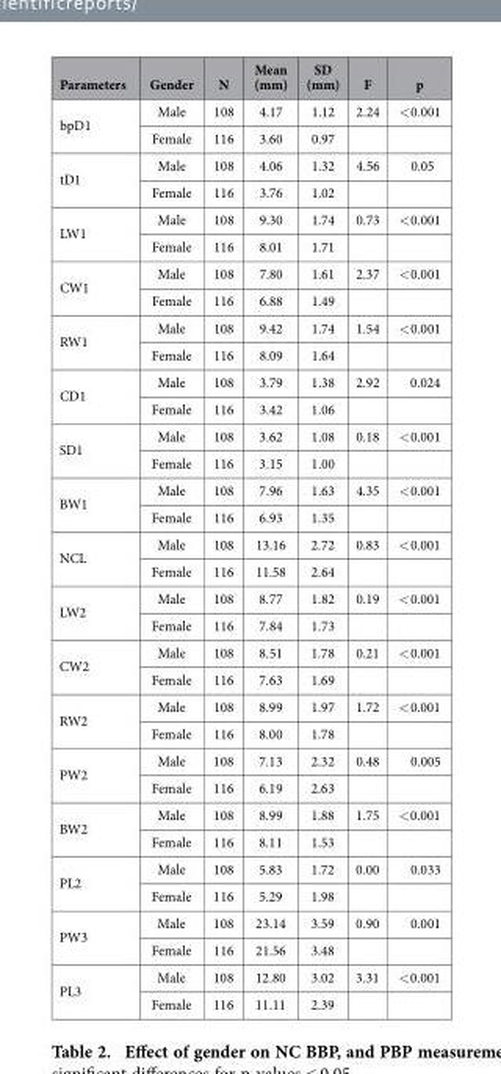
<table><thead><tr><td>Parameters</td><td>Gender</td><td>N</td><td>Mean (mm)</td><td>SD (mm)</td><td>F</td><td>p</td></tr></thead><tbody><tr><td rowspan="2">bpD1</td><td>Male</td><td>108</td><td>4.17</td><td>1.12</td><td>2.24</td><td>&lt; 0.001</td></tr><tr><td>Female</td><td>116</td><td>3.60</td><td>0.97</td><td></td><td></td></tr><tr><td rowspan="2">tD1</td><td>Male</td><td>108</td><td>4.06</td><td>1.32</td><td>4.56</td><td>0.05</td></tr><tr><td>Female</td><td>116</td><td>3.76</td><td>1.02</td><td></td><td></td></tr><tr><td rowspan="2">LW1</td><td>Male</td><td>108</td><td>9.30</td><td>1.74</td><td>0.73</td><td>&lt; 0.001</td></tr><tr><td>Female</td><td>116</td><td>8.01</td><td>1.71</td><td></td><td></td></tr><tr><td rowspan="2">CW1</td><td>Male</td><td>108</td><td>7.80</td><td>1.61</td><td>2.37</td><td>&lt; 0.001</td></tr><tr><td>Female</td><td>116</td><td>6.88</td><td>1.49</td><td></td><td></td></tr><tr><td rowspan="2">RW1</td><td>Male</td><td>108</td><td>9.42</td><td>1.74</td><td>1.54</td><td>&lt; 0.001</td></tr><tr><td>Female</td><td>116</td><td>8.09</td><td>1.64</td><td></td><td></td></tr><tr><td rowspan="2">CD1</td><td>Male</td><td>108</td><td>3.79</td><td>1.38</td><td>2.92</td><td>0.024</td></tr><tr><td>Female</td><td>116</td><td>3.42</td><td>1.06</td><td></td><td></td></tr><tr><td rowspan="2">SD1</td><td>Male</td><td>108</td><td>3.62</td><td>1.08</td><td>0.18</td><td>&lt; 0.001</td></tr><tr><td>Female</td><td>116</td><td>3.15</td><td>1.00</td><td></td><td></td></tr><tr><td rowspan="2">BW1</td><td>Male</td><td>108</td><td>7.96</td><td>1.63</td><td>4.35</td><td>&lt; 0.001</td></tr><tr><td>Female</td><td>116</td><td>6.93</td><td>1.35</td><td></td><td></td></tr><tr><td rowspan="2">NCL</td><td>Male</td><td>108</td><td>13.16</td><td>2.72</td><td>0.83</td><td>&lt; 0.001</td></tr><tr><td>Female</td><td>116</td><td>11.58</td><td>2.64</td><td></td><td></td></tr><tr><td rowspan="2">LW2</td><td>Male</td><td>108</td><td>8.77</td><td>1.82</td><td>0.19</td><td>&lt; 0.001</td></tr><tr><td>Female</td><td>116</td><td>7.84</td><td>1.73</td><td></td><td></td></tr><tr><td rowspan="2">CW2</td><td>Male</td><td>108</td><td>8.51</td><td>1.78</td><td>0.21</td><td>&lt; 0.001</td></tr><tr><td>Female</td><td>116</td><td>7.63</td><td>1.69</td><td></td><td></td></tr><tr><td rowspan="2">RW2</td><td>Male</td><td>108</td><td>8.99</td><td>1.97</td><td>1.72</td><td>&lt; 0.001</td></tr><tr><td>Female</td><td>116</td><td>8.00</td><td>1.78</td><td></td><td></td></tr><tr><td rowspan="2">PW2</td><td>Male</td><td>108</td><td>7.13</td><td>2.32</td><td>0.48</td><td>0.005</td></tr><tr><td>Female</td><td>116</td><td>6.19</td><td>2.63</td><td></td><td></td></tr><tr><td rowspan="2">BW2</td><td>Male</td><td>108</td><td>8.99</td><td>1.88</td><td>1.75</td><td>&lt; 0.001</td></tr><tr><td>Female</td><td>116</td><td>8.11</td><td>1.53</td><td></td><td></td></tr><tr><td rowspan="2">PL2</td><td>Male</td><td>108</td><td>5.83</td><td>1.72</td><td>0.00</td><td>0.033</td></tr><tr><td>Female</td><td>116</td><td>5.29</td><td>1.98</td><td></td><td></td></tr><tr><td rowspan="2">PW3</td><td>Male</td><td>108</td><td>23.14</td><td>3.59</td><td>0.90</td><td>0.001</td></tr><tr><td>Female</td><td>116</td><td>21.56</td><td>3.48</td><td></td><td></td></tr><tr><td rowspan="2">PL3</td><td>Male</td><td>108</td><td>12.80</td><td>3.02</td><td>3.31</td><td>&lt; 0.001</td></tr><tr><td>Female</td><td>116</td><td>11.11</td><td>2.39</td><td></td><td></td></tr></tbody></table>